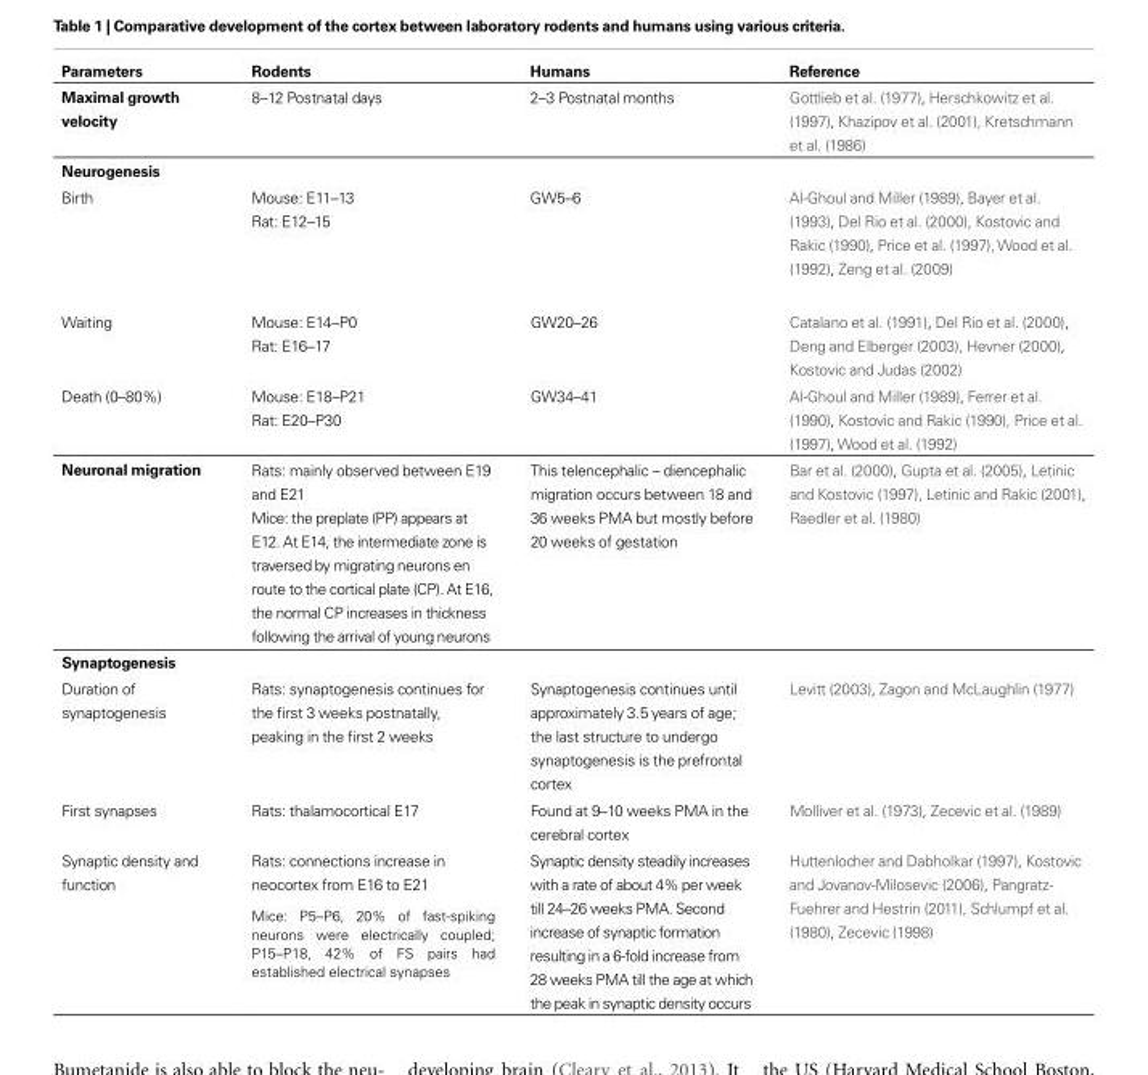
<table><thead><tr><td>Parameters</td><td>Rodents</td><td>Humans</td><td>Reference</td></tr></thead><tbody><tr><td>Maximal growth velocity</td><td>8–12 Postnatal days</td><td>2–3 Postnatal months</td><td>Gottlieb et al. (1977), Herschkowitz et al. (1997), Khazipov et al. (2001), Kretschmann et al. (1986)</td></tr><tr><td colspan="4">Neurogenesis</td></tr><tr><td>Birth</td><td>Mouse: E11–13 Rat: E12–15</td><td>GW5–6</td><td>Al-Ghoul and Miller (1989), Bayer et al. (1993), Del Rio et al. (2000), Kostovic and Rakic (1990), Price et al. (1997), Wood et al. (1992), Zeng et al. (2009)</td></tr><tr><td>Waiting</td><td>Mouse: E14–P0 Rat: E16–17</td><td>GW20–26</td><td>Catalano et al. (1991), Del Rio et al. (2000), Deng and Elberger (2003), Hevner (2000), Kostovic and Judas (2002)</td></tr><tr><td>Death (0–80%)</td><td>Mouse: E18–P21 Rat: E20–P30</td><td>GW34–41</td><td>Al-Ghoul and Miller (1989), Ferrer et al. (1990), Kostovic and Rakic (1990), Price et al. (1997), Wood et al. (1992)</td></tr><tr><td>Neuronal migration</td><td>Rats: mainly observed between E19 and E21 Mice: the preplate (PP) appears at E12. At E14, the intermediate zone is traversed by migrating neurons en route to the cortical plate (CP). At E16, the normal CP increases in thickness following the arrival of young neurons</td><td>This telencephalic – diencephalic migration occurs between 18 and 36 weeks PMA but mostly before 20 weeks of gestation</td><td>Bar et al. (2000), Gupta et al. (2005), Letinic and Kostovic (1997), Letinic and Rakic (2001), Raedler et al. (1980)</td></tr><tr><td colspan="4">Synaptogenesis</td></tr><tr><td>Duration of synaptogenesis</td><td>Rats: synaptogenesis continues for the first 3 weeks postnatally, peaking in the first 2 weeks</td><td>Synaptogenesis continues until approximately 3.5 years of age; the last structure to undergo synaptogenesis is the prefrontal cortex</td><td>Levitt (2003), Zagon and McLaughlin (1977)</td></tr><tr><td>First synapses</td><td>Rats: thalamocortical E17</td><td>Found at 9–10 weeks PMA in the cerebral cortex</td><td>Molliver et al. (1973), Zecevic et al. (1989)</td></tr><tr><td>Synaptic density and function</td><td>Rats: connections increase in neocortex from E16 to E21 Mice: P5–P6, 20% of fast-spiking neurons were electrically coupled; P15–P18, 42% of FS pairs had established electrical synapses</td><td>Synaptic density steadily increases with a rate of about 4% per week till 24–26 weeks PMA. Second increase of synaptic formation resulting in a 6-fold increase from 28 weeks PMA till the age at which the peak in synaptic density occurs</td><td>Huttenlocher and Dabholkar (1997), Kostovic and Jovanov-Milosevic (2006), Pangratz- Fuehrer and Hestrin (2011), Schlumpf et al. (1980), Zecevic (1998)</td></tr></tbody></table>